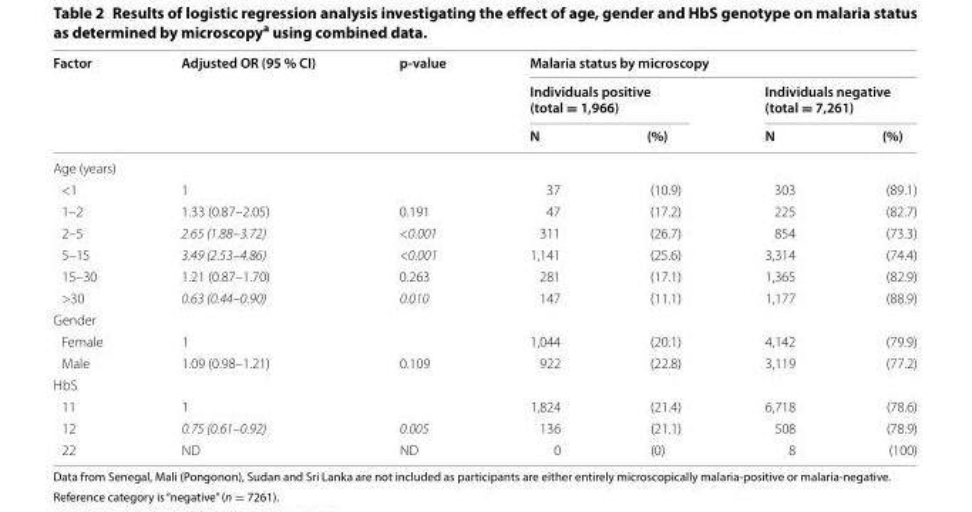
<table><thead><tr><td rowspan="3">Factor</td><td rowspan="3">Adjusted OR (95 % CI)</td><td rowspan="3">p-value</td><td colspan="4">Malaria status by microscopy</td></tr><tr><td colspan="2">Individuals positive (total = 1,966)</td><td colspan="2">Individuals negative (total = 7,261)</td></tr><tr><td>N</td><td>(%)</td><td>N</td><td>(%)</td></tr></thead><tbody><tr><td colspan="7">Age (years)</td></tr><tr><td>&lt;1</td><td>1</td><td></td><td>37</td><td>(10.9)</td><td>303</td><td>(89.1)</td></tr><tr><td>1–2</td><td>1.33 (0.87–2.05)</td><td>0.191</td><td>47</td><td>(17.2)</td><td>225</td><td>(82.7)</td></tr><tr><td>2–5</td><td>2.65 (1.88–3.72)</td><td>&lt;0.001</td><td>311</td><td>(26.7)</td><td>854</td><td>(73.3)</td></tr><tr><td>5–15</td><td>3.49 (2.53–4.86)</td><td>&lt;0.001</td><td>1,141</td><td>(25.6)</td><td>3,314</td><td>(74.4)</td></tr><tr><td>15–30</td><td>1.21 (0.87–1.70)</td><td>0.263</td><td>281</td><td>(17.1)</td><td>1,365</td><td>(82.9)</td></tr><tr><td>&gt;30</td><td>0.63 (0.44–0.90)</td><td>0.010</td><td>147</td><td>(11.1)</td><td>1,177</td><td>(88.9)</td></tr><tr><td colspan="7">Gender</td></tr><tr><td>Female</td><td>1</td><td></td><td>1,044</td><td>(20.1)</td><td>4,142</td><td>(79.9)</td></tr><tr><td>Male</td><td>1.09 (0.98–1.21)</td><td>0.109</td><td>922</td><td>(22.8)</td><td>3,119</td><td>(77.2)</td></tr><tr><td colspan="7">HbS</td></tr><tr><td>11</td><td>1</td><td></td><td>1,824</td><td>(21.4)</td><td>6,718</td><td>(78.6)</td></tr><tr><td>12</td><td>0.75 (0.61–0.92)</td><td>0.005</td><td>136</td><td>(21.1)</td><td>508</td><td>(78.9)</td></tr><tr><td>22</td><td>ND</td><td>ND</td><td>0</td><td>(0)</td><td>8</td><td>(100)</td></tr></tbody></table>